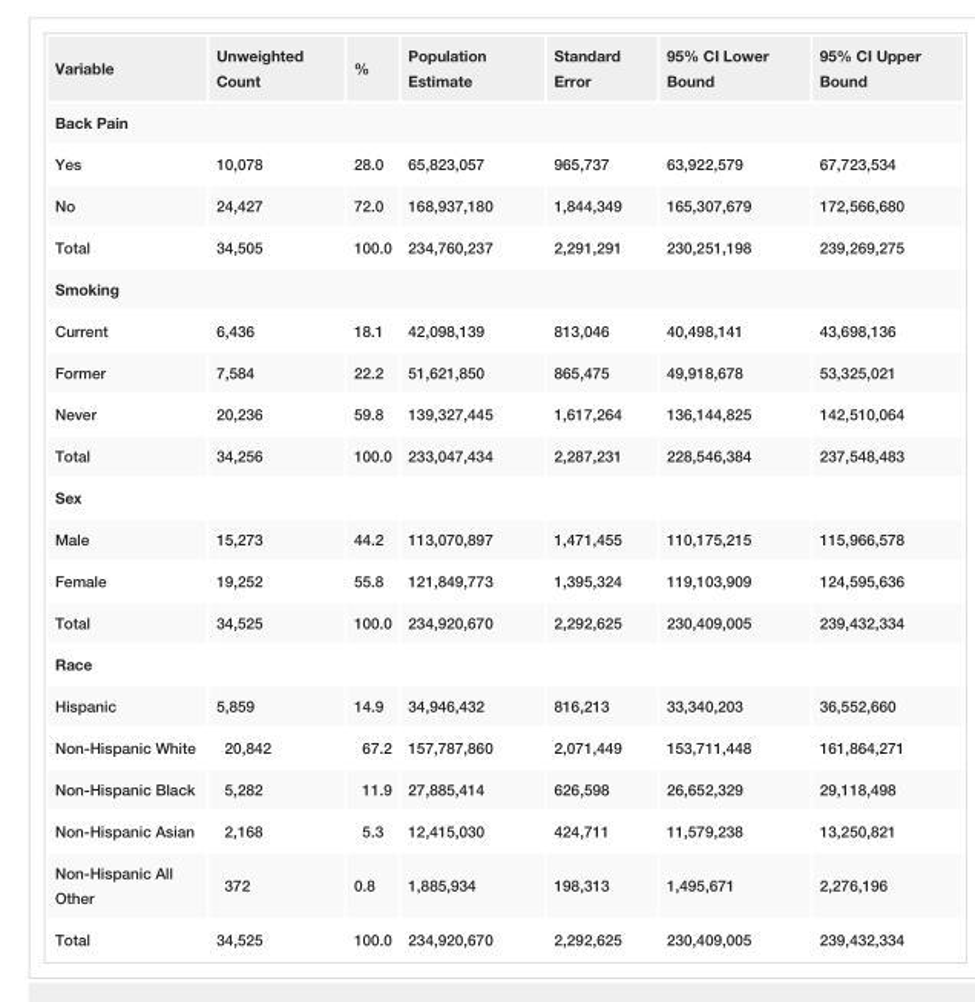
<table><tbody><tr><td>Variable</td><td>Unweighted Count</td><td>%</td><td>Population Estimate</td><td>Standard Error</td><td>95% CI Lower Bound</td><td>95% CI Upper Bound</td></tr><tr><td colspan="7">Back Pain</td></tr><tr><td>Yes</td><td>10,078</td><td>28.0</td><td>65,823,057</td><td>965,737</td><td>63,922,579</td><td>67,723,534</td></tr><tr><td>No</td><td>24,427</td><td>72.0</td><td>168,937,180</td><td>1,844,349</td><td>165,307,679</td><td>172,566,680</td></tr><tr><td>Total</td><td>34,505</td><td>100.0</td><td>234,760,237</td><td>2,291,291</td><td>230,251,198</td><td>239,269,275</td></tr><tr><td colspan="7">Smoking</td></tr><tr><td>Current</td><td>6,436</td><td>18.1</td><td>42,098,139</td><td>813,046</td><td>40,498,141</td><td>43,698,136</td></tr><tr><td>Former</td><td>7,584</td><td>22.2</td><td>51,621,850</td><td>865,475</td><td>49,918,678</td><td>53,325,021</td></tr><tr><td>Never</td><td>20,236</td><td>59.8</td><td>139,327,445</td><td>1,617,264</td><td>136,144,825</td><td>142,510,064</td></tr><tr><td>Total</td><td>34,256</td><td>100.0</td><td>233,047,434</td><td>2,287,231</td><td>228,546,384</td><td>237,548,483</td></tr><tr><td colspan="7">Sex</td></tr><tr><td>Male</td><td>15,273</td><td>44.2</td><td>113,070,897</td><td>1,471,455</td><td>110,175,215</td><td>115,966,578</td></tr><tr><td>Female</td><td>19,252</td><td>55.8</td><td>121,849,773</td><td>1,395,324</td><td>119,103,909</td><td>124,595,636</td></tr><tr><td>Total</td><td>34,525</td><td>100.0</td><td>234,920,670</td><td>2,292,625</td><td>230,409,005</td><td>239,432,334</td></tr><tr><td colspan="7">Race</td></tr><tr><td>Hispanic</td><td>5,859</td><td>14.9</td><td>34,946,432</td><td>816,213</td><td>33,340,203</td><td>36,552,660</td></tr><tr><td>Non-Hispanic White</td><td>20,842</td><td>67.2</td><td>157,787,860</td><td>2,071,449</td><td>153,711,448</td><td>161,864,271</td></tr><tr><td>Non-Hispanic Black</td><td>5,282</td><td>11.9</td><td>27,885,414</td><td>626,598</td><td>26,652,329</td><td>29,118,498</td></tr><tr><td>Non-Hispanic Asian</td><td>2,168</td><td>5.3</td><td>12,415,030</td><td>424,711</td><td>11,579,238</td><td>13,250,821</td></tr><tr><td>Non-Hispanic All Other</td><td>372</td><td>0.8</td><td>1,885,934</td><td>198,313</td><td>1,495,671</td><td>2,276,196</td></tr><tr><td>Total</td><td>34,525</td><td>100.0</td><td>234,920,670</td><td>2,292,625</td><td>230,409,005</td><td>239,432,334</td></tr></tbody></table>